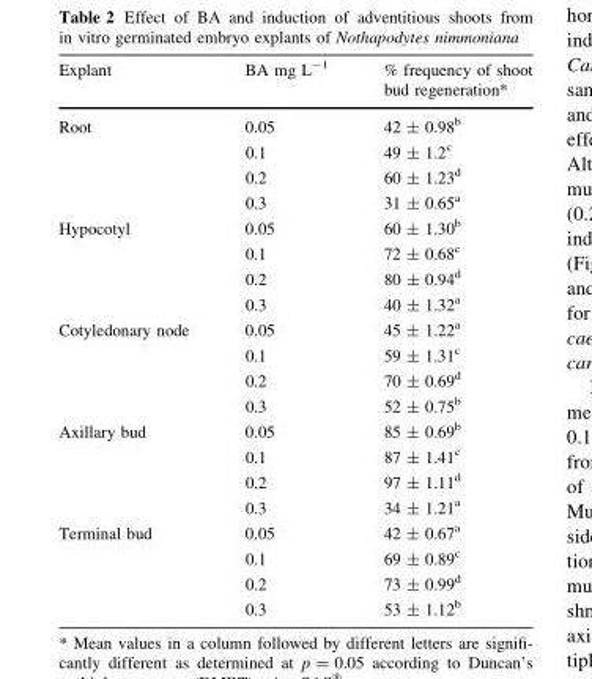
<table><thead><tr><td>Explant</td><td>BA mg L<sup>-1</sup></td><td>% frequency of shoot bud regeneration*</td></tr></thead><tbody><tr><td>Root</td><td>0.05 0.1 0.2 0.3</td><td>42 ± 0.98<sup>b</sup> 49 ± 1.2<sup>c</sup> 60 ± 1.23<sup>d</sup> 31 ± 0.65<sup>a</sup></td></tr><tr><td>Hypocotyl</td><td>0.05 0.1 0.2 0.3</td><td>60 ± 1.30<sup>b</sup> 72 ± 0.68<sup>c</sup> 80 ± 0.94<sup>d</sup> 40 ± 1.32<sup>a</sup></td></tr><tr><td>Cotyledonary node</td><td>0.05 0.1 0.2 0.3</td><td>45 ± 1.22<sup>a</sup> 59 ± 1.31<sup>c</sup> 70 ± 0.69<sup>d</sup> 52 ± 0.75<sup>b</sup></td></tr><tr><td>Axillary bud</td><td>0.05 0.1 0.2 0.3</td><td>85 ± 0.69<sup>b</sup> 87 ± 1.41<sup>c</sup> 97 ± 1.11<sup>d</sup> 34 ± 1.21<sup>a</sup></td></tr><tr><td>Terminal bud</td><td>0.05 0.1 0.2 0.3</td><td>42 ± 0.67<sup>a</sup> 69 ± 0.89<sup>c</sup> 73 ± 0.99<sup>d</sup> 53 ± 1.12<sup>b</sup></td></tr></tbody></table>